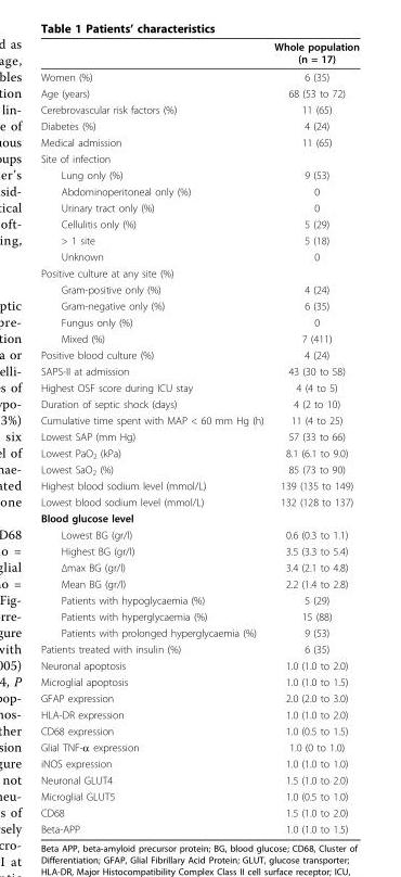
<table><thead><tr><td></td><td>Whole population (n = 17)</td></tr></thead><tbody><tr><td>Women (%)</td><td>6 (35)</td></tr><tr><td>Age (years)</td><td>68 (53 to 72)</td></tr><tr><td>Cerebrovascular risk factors (%)</td><td>11 (65)</td></tr><tr><td>Diabetes (%)</td><td>4 (24)</td></tr><tr><td>Medical admission</td><td>11 (65)</td></tr><tr><td colspan="2">Site of infection</td></tr><tr><td>Lung only (%)</td><td>9 (53)</td></tr><tr><td>Abdominoperitoneal only (%)</td><td>0</td></tr><tr><td>Urinary tract only (%)</td><td>0</td></tr><tr><td>Cellulitis only (%)</td><td>5 (29)</td></tr><tr><td>&gt; 1 site</td><td>5 (18)</td></tr><tr><td>Unknown</td><td>0</td></tr><tr><td colspan="2">Positive culture at any site (%)</td></tr><tr><td>Gram-positive only (%)</td><td>4 (24)</td></tr><tr><td>Gram-negative only (%)</td><td>6 (35)</td></tr><tr><td>Fungus only (%)</td><td>0</td></tr><tr><td>Mixed (%)</td><td>7 (411)</td></tr><tr><td>Positive blood culture (%)</td><td>4 (24)</td></tr><tr><td>SAPS-II at admission</td><td>43 (30 to 58)</td></tr><tr><td>Highest OSF score during ICU stay</td><td>4 (4 to 5)</td></tr><tr><td>Duration of septic shock (days)</td><td>4 (2 to 10)</td></tr><tr><td>Cumulative time spent with MAP &lt; 60 mm Hg (h)</td><td>11 (4 to 25)</td></tr><tr><td>Lowest SAP (mm Hg)</td><td>57 (33 to 66)</td></tr><tr><td>Lowest PaO<sub>2</sub> (kPa)</td><td>8.1 (6.1 to 9.0)</td></tr><tr><td>Lowest SaO<sub>2</sub> (%)</td><td>85 (73 to 90)</td></tr><tr><td>Highest blood sodium level (mmol/L)</td><td>139 (135 to 149)</td></tr><tr><td>Lowest blood sodium level (mmol/L)</td><td>132 (128 to 137)</td></tr><tr><td colspan="2">Blood glucose level</td></tr><tr><td>Lowest BG (gr/l)</td><td>0.6 (0.3 to 1.1)</td></tr><tr><td>Highest BG (gr/l)</td><td>3.5 (3.3 to 5.4)</td></tr><tr><td>Δmax BG (gr/l)</td><td>3.4 (2.1 to 4.8)</td></tr><tr><td>Mean BG (gr/l)</td><td>2.2 (1.4 to 2.8)</td></tr><tr><td>Patients with hypoglycaemia (%)</td><td>5 (29)</td></tr><tr><td>Patients with hyperglycaemia (%)</td><td>15 (88)</td></tr><tr><td>Patients with prolonged hyperglycaemia (%)</td><td>9 (53)</td></tr><tr><td>Patients treated with insulin (%)</td><td>6 (35)</td></tr><tr><td>Neuronal apoptosis</td><td>1.0 (1.0 to 2.0)</td></tr><tr><td>Microglial apoptosis</td><td>1.0 (1.0 to 1.5)</td></tr><tr><td>GFAP expression</td><td>2.0 (2.0 to 3.0)</td></tr><tr><td>HLA-DR expression</td><td>1.0 (1.0 to 2.0)</td></tr><tr><td>CD68 expression</td><td>1.0 (0.5 to 1.5)</td></tr><tr><td>Glial TNF-α expression</td><td>1.0 (0 to 1.0)</td></tr><tr><td>iNOS expression</td><td>1.0 (1.0 to 1.0)</td></tr><tr><td>Neuronal GLUT4</td><td>1.5 (1.0 to 2.0)</td></tr><tr><td>Microglial GLUT5</td><td>1.0 (0.5 to 1.0)</td></tr><tr><td>CD68</td><td>1.5 (1.0 to 2.0)</td></tr><tr><td>Beta-APP</td><td>1.0 (1.0 to 1.5)</td></tr></tbody></table>